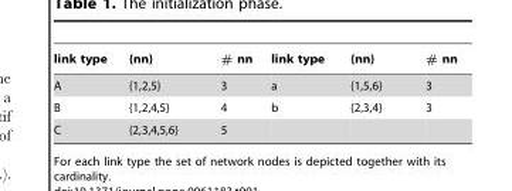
<table><thead><tr><td>link type</td><td>{nn}</td><td># nn</td><td>link type</td><td>{nn}</td><td># nn</td></tr></thead><tbody><tr><td>A</td><td>{1,2,5}</td><td>3</td><td>a</td><td>{1,5,6}</td><td>3</td></tr><tr><td>B</td><td>{1,2,4,5}</td><td>4</td><td>b</td><td>{2,3,4}</td><td>3</td></tr><tr><td>C</td><td>{2,3,4,5,6}</td><td>5</td><td></td><td></td><td></td></tr></tbody></table>